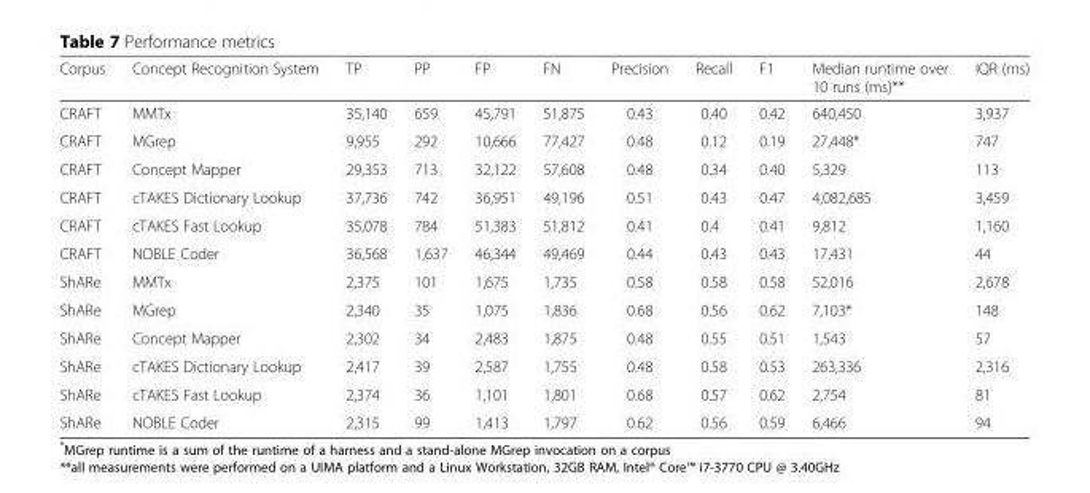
<table><thead><tr><td>Corpus</td><td>Concept Recognition System</td><td>TP</td><td>PP</td><td>FP</td><td>FN</td><td>Precision</td><td>Recall</td><td>F1</td><td>Median runtime over 10 runs (ms)**</td><td>IQR (ms)</td></tr></thead><tbody><tr><td>CRAFT</td><td>MMTx</td><td>35,140</td><td>659</td><td>45,791</td><td>51,875</td><td>0.43</td><td>0.40</td><td>0.42</td><td>640,450</td><td>3,937</td></tr><tr><td>CRAFT</td><td>MGrep</td><td>9,955</td><td>292</td><td>10,666</td><td>77,427</td><td>0.48</td><td>0.12</td><td>0.19</td><td>27,448*</td><td>747</td></tr><tr><td>CRAFT</td><td>Concept Mapper</td><td>29,353</td><td>713</td><td>32,122</td><td>57,608</td><td>0.48</td><td>0.34</td><td>0.40</td><td>5,329</td><td>113</td></tr><tr><td>CRAFT</td><td>cTAKES Dictionary Lookup</td><td>37,736</td><td>742</td><td>36,951</td><td>49,196</td><td>0.51</td><td>0.43</td><td>0.47</td><td>4,082,685</td><td>3,459</td></tr><tr><td>CRAFT</td><td>cTAKES Fast Lookup</td><td>35,078</td><td>784</td><td>51,383</td><td>51,812</td><td>0.41</td><td>0.4</td><td>0.41</td><td>9,812</td><td>1,160</td></tr><tr><td>CRAFT</td><td>NOBLE Coder</td><td>36,568</td><td>1,637</td><td>46,344</td><td>49,469</td><td>0.44</td><td>0.43</td><td>0.43</td><td>17,431</td><td>44</td></tr><tr><td>ShARe</td><td>MMTx</td><td>2,375</td><td>101</td><td>1,675</td><td>1,735</td><td>0.58</td><td>0.58</td><td>0.58</td><td>52,016</td><td>2,678</td></tr><tr><td>ShARe</td><td>MGrep</td><td>2,340</td><td>35</td><td>1,075</td><td>1,836</td><td>0.68</td><td>0.56</td><td>0.62</td><td>7,103*</td><td>148</td></tr><tr><td>ShARe</td><td>Concept Mapper</td><td>2,302</td><td>34</td><td>2,483</td><td>1,875</td><td>0.48</td><td>0.55</td><td>0.51</td><td>1,543</td><td>57</td></tr><tr><td>ShARe</td><td>cTAKES Dictionary Lookup</td><td>2,417</td><td>39</td><td>2,587</td><td>1,755</td><td>0.48</td><td>0.58</td><td>0.53</td><td>263,336</td><td>2,316</td></tr><tr><td>ShARe</td><td>cTAKES Fast Lookup</td><td>2,374</td><td>36</td><td>1,101</td><td>1,801</td><td>0.68</td><td>0.57</td><td>0.62</td><td>2,754</td><td>81</td></tr><tr><td>ShARe</td><td>NOBLE Coder</td><td>2,315</td><td>99</td><td>1,413</td><td>1,797</td><td>0.62</td><td>0.56</td><td>0.59</td><td>6,466</td><td>94</td></tr></tbody></table>